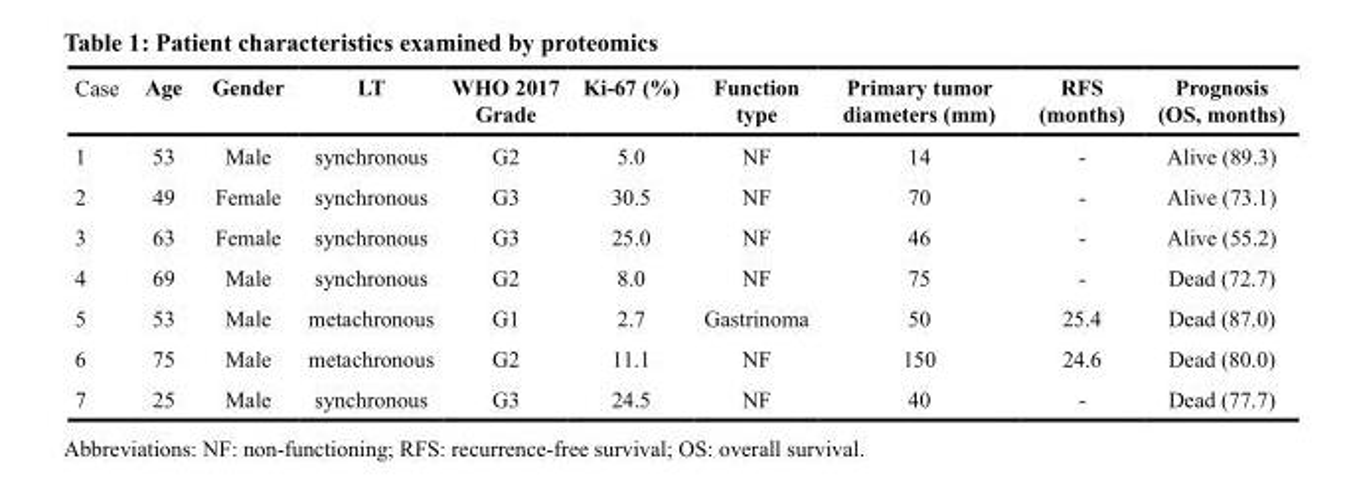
<table><thead><tr><td>Case</td><td>Age</td><td>Gender</td><td>LT</td><td>WHO 2017 Grade</td><td>Ki-67 (%)</td><td>Function type</td><td>Primary tumor diameters (mm)</td><td>RFS (months)</td><td>Prognosis (OS, months)</td></tr></thead><tbody><tr><td>1</td><td>53</td><td>Male</td><td>synchronous</td><td>G2</td><td>5.0</td><td>NF</td><td>14</td><td>-</td><td>Alive (89.3)</td></tr><tr><td>2</td><td>49</td><td>Female</td><td>synchronous</td><td>G3</td><td>30.5</td><td>NF</td><td>70</td><td>-</td><td>Alive (73.1)</td></tr><tr><td>3</td><td>63</td><td>Female</td><td>synchronous</td><td>G3</td><td>25.0</td><td>NF</td><td>46</td><td>-</td><td>Alive (55.2)</td></tr><tr><td>4</td><td>69</td><td>Male</td><td>synchronous</td><td>G2</td><td>8.0</td><td>NF</td><td>75</td><td>-</td><td>Dead (72.7)</td></tr><tr><td>5</td><td>53</td><td>Male</td><td>metachronous</td><td>G1</td><td>2.7</td><td>Gastrinoma</td><td>50</td><td>25.4</td><td>Dead (87.0)</td></tr><tr><td>6</td><td>75</td><td>Male</td><td>metachronous</td><td>G2</td><td>11.1</td><td>NF</td><td>150</td><td>24.6</td><td>Dead (80.0)</td></tr><tr><td>7</td><td>25</td><td>Male</td><td>synchronous</td><td>G3</td><td>24.5</td><td>NF</td><td>40</td><td>-</td><td>Dead (77.7)</td></tr></tbody></table>